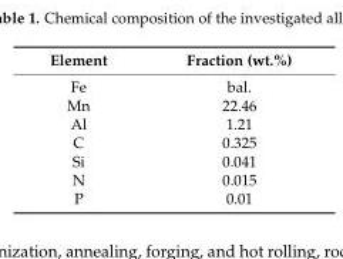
<table><thead><tr><td>Element</td><td>Fraction (wt.%)</td></tr></thead><tbody><tr><td>Fe</td><td>bal.</td></tr><tr><td>Mn</td><td>22.46</td></tr><tr><td>Al</td><td>1.21</td></tr><tr><td>C</td><td>0.325</td></tr><tr><td>Si</td><td>0.041</td></tr><tr><td>N</td><td>0.015</td></tr><tr><td>P</td><td>0.01</td></tr></tbody></table>